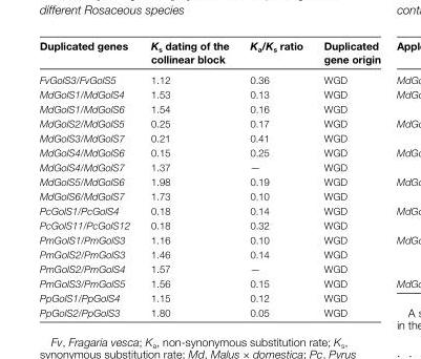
<table><thead><tr><td>Duplicated genes</td><td>K<sub>s</sub> dating of the collinear block</td><td>K<sub>a</sub>/K<sub>s</sub> ratio</td><td>Duplicated gene origin</td></tr></thead><tbody><tr><td>FvGolS3/FvGolS5</td><td>1.12</td><td>0.36</td><td>WGD</td></tr><tr><td>MdGolS1/MdGolS4</td><td>1.53</td><td>0.13</td><td>WGD</td></tr><tr><td>MdGolS1/MdGolS6</td><td>1.54</td><td>0.16</td><td>WGD</td></tr><tr><td>MdGolS2/MdGolS5</td><td>0.25</td><td>0.17</td><td>WGD</td></tr><tr><td>MdGolS3/MdGolS7</td><td>0.21</td><td>0.41</td><td>WGD</td></tr><tr><td>MdGolS4/MdGolS6</td><td>0.15</td><td>0.25</td><td>WGD</td></tr><tr><td>MdGolS4/MdGolS7</td><td>1.37</td><td>—</td><td>WGD</td></tr><tr><td>MdGolS5/MdGolS6</td><td>1.98</td><td>0.19</td><td>WGD</td></tr><tr><td>MdGolS6/MdGolS7</td><td>1.73</td><td>0.10</td><td>WGD</td></tr><tr><td>PcGolS1/PcGolS4</td><td>0.18</td><td>0.14</td><td>WGD</td></tr><tr><td>PcGolS11/PcGolS12</td><td>0.18</td><td>0.32</td><td>WGD</td></tr><tr><td>PmGolS1/PmGolS3</td><td>1.16</td><td>0.10</td><td>WGD</td></tr><tr><td>PmGolS2/PmGolS3</td><td>1.46</td><td>0.14</td><td>WGD</td></tr><tr><td>PmGolS2/PmGolS4</td><td>1.57</td><td>—</td><td>WGD</td></tr><tr><td>PmGolS3/PmGolS5</td><td>1.56</td><td>0.15</td><td>WGD</td></tr><tr><td>PpGolS1/PpGolS4</td><td>1.15</td><td>0.12</td><td>WGD</td></tr><tr><td>PpGolS2/PpGolS3</td><td>1.80</td><td>0.05</td><td>WGD</td></tr></tbody></table>